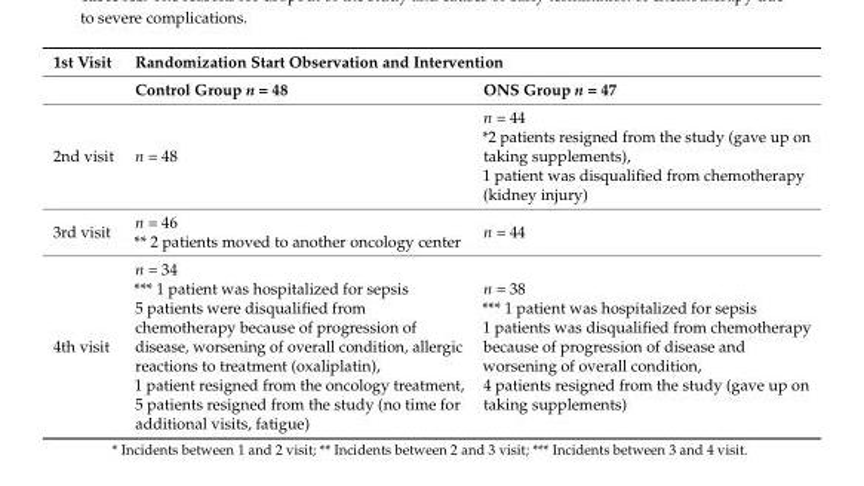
<table><thead><tr><td rowspan="2">1st Visit</td><td colspan="2">Randomization Start Observation and Intervention</td></tr><tr><td>Control Group n = 48</td><td>ONS Group n = 47</td></tr></thead><tbody><tr><td>2nd visit</td><td>n = 48</td><td>n = 44 *2 patients resigned from the study (gave up on taking supplements), 1 patient was disqualified from chemotherapy (kidney injury)</td></tr><tr><td>3rd visit</td><td>n = 46 ** 2 patients moved to another oncology center</td><td>n = 44</td></tr><tr><td>4th visit</td><td>n = 34 *** 1 patient was hospitalized for sepsis 5 patients were disqualified from chemotherapy because of progression of disease, worsening of overall condition, allergic reactions to treatment (oxaliplatin), 1 patient resigned from the oncology treatment, 5 patients resigned from the study (no time for additional visits, fatigue)</td><td>n = 38 *** 1 patient was hospitalized for sepsis 1 patients was disqualified from chemotherapy because of progression of disease and worsening of overall condition, 4 patients resigned from the study (gave up on taking supplements)</td></tr></tbody></table>